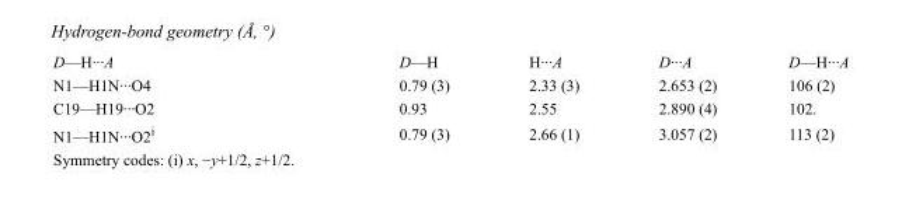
<table><tbody><tr><td>D—H···A</td><td>D—H</td><td>H···A</td><td>D···A</td><td>D—H···A</td></tr><tr><td>N1—H1N···O4</td><td>0.79 (3)</td><td>2.33 (3)</td><td>2.653 (2)</td><td>106 (2)</td></tr><tr><td>C19—H19···O2</td><td>0.93</td><td>2.55</td><td>2.890 (4)</td><td>102.</td></tr><tr><td>N1—H1N···O2<sup>i</sup></td><td>0.79 (3)</td><td>2.66 (1)</td><td>3.057 (2)</td><td>113 (2)</td></tr></tbody></table>